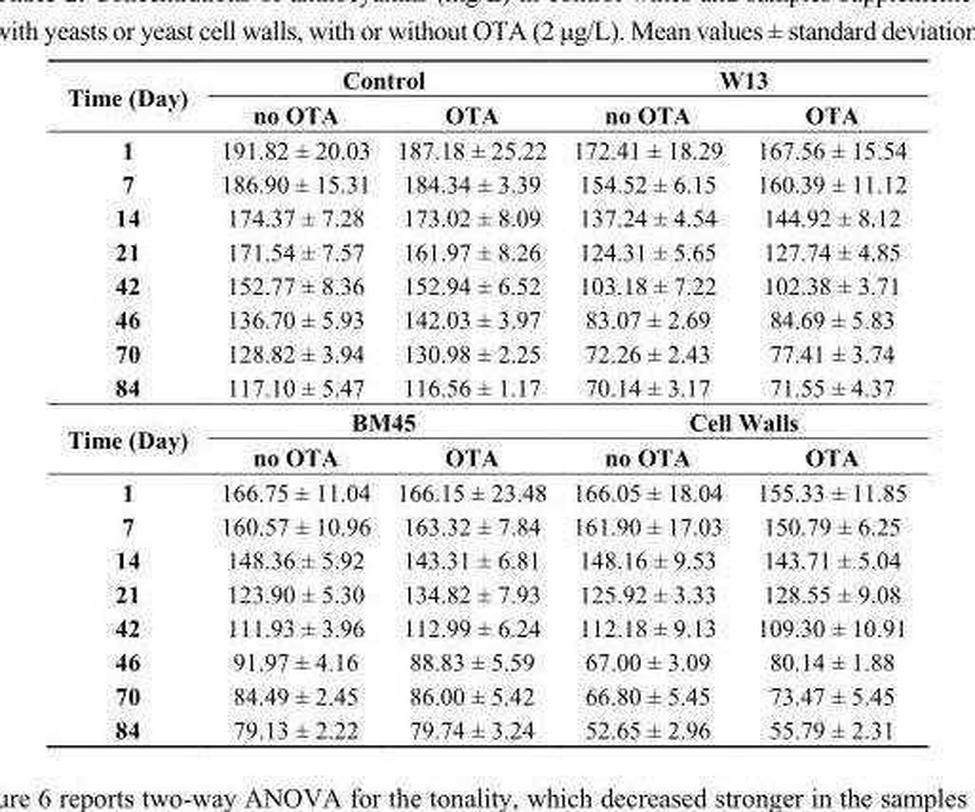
<table><tbody><tr><td rowspan="2">Time (Day)</td><td colspan="2">Control</td><td colspan="2">W13</td></tr><tr><td>no OTA</td><td>OTA</td><td>no OTA</td><td>OTA</td></tr><tr><td>1</td><td>191.82 ± 20.03</td><td>187.18 ± 25.22</td><td>172.41 ± 18.29</td><td>167.56 ± 15.54</td></tr><tr><td>7</td><td>186.90 ± 15.31</td><td>184.34 ± 3.39</td><td>154.52 ± 6.15</td><td>160.39 ± 11.12</td></tr><tr><td>14</td><td>174.37 ± 7.28</td><td>173.02 ± 8.09</td><td>137.24 ± 4.54</td><td>144.92 ± 8.12</td></tr><tr><td>21</td><td>171.54 ± 7.57</td><td>161.97 ± 8.26</td><td>124.31 ± 5.65</td><td>127.74 ± 4.85</td></tr><tr><td>42</td><td>152.77 ± 8.36</td><td>152.94 ± 6.52</td><td>103.18 ± 7.22</td><td>102.38 ± 3.71</td></tr><tr><td>46</td><td>136.70 ± 5.93</td><td>142.03 ± 3.97</td><td>83.07 ± 2.69</td><td>84.69 ± 5.83</td></tr><tr><td>70</td><td>128.82 ± 3.94</td><td>130.98 ± 2.25</td><td>72.26 ± 2.43</td><td>77.41 ± 3.74</td></tr><tr><td>84</td><td>117.10 ± 5.47</td><td>116.56 ± 1.17</td><td>70.14 ± 3.17</td><td>71.55 ± 4.37</td></tr><tr><td rowspan="2">Time (Day)</td><td colspan="2">BM45</td><td colspan="2">Cell Walls</td></tr><tr><td>no OTA</td><td>OTA</td><td>no OTA</td><td>OTA</td></tr><tr><td>1</td><td>166.75 ± 11.04</td><td>166.15 ± 23.48</td><td>166.05 ± 18.04</td><td>155.33 ± 11.85</td></tr><tr><td>7</td><td>160.57 ± 10.96</td><td>163.32 ± 7.84</td><td>161.90 ± 17.03</td><td>150.79 ± 6.25</td></tr><tr><td>14</td><td>148.36 ± 5.92</td><td>143.31 ± 6.81</td><td>148.16 ± 9.53</td><td>143.71 ± 5.04</td></tr><tr><td>21</td><td>123.90 ± 5.30</td><td>134.82 ± 7.93</td><td>125.92 ± 3.33</td><td>128.55 ± 9.08</td></tr><tr><td>42</td><td>111.93 ± 3.96</td><td>112.99 ± 6.24</td><td>112.18 ± 9.13</td><td>109.30 ± 10.91</td></tr><tr><td>46</td><td>91.97 ± 4.16</td><td>88.83 ± 5.59</td><td>67.00 ± 3.09</td><td>80.14 ± 1.88</td></tr><tr><td>70</td><td>84.49 ± 2.45</td><td>86.00 ± 5.42</td><td>66.80 ± 5.45</td><td>73.47 ± 5.45</td></tr><tr><td>84</td><td>79.13 ± 2.22</td><td>79.74 ± 3.24</td><td>52.65 ± 2.96</td><td>55.79 ± 2.31</td></tr></tbody></table>